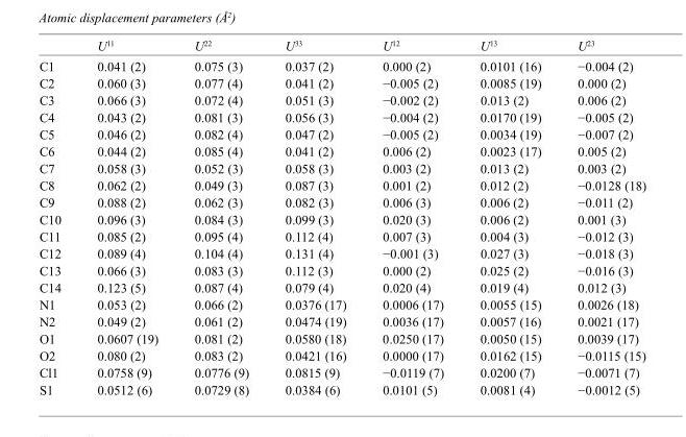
<table><thead><tr><td></td><td>U<sup>11</sup></td><td>U<sup>22</sup></td><td>U<sup>33</sup></td><td>U<sup>12</sup></td><td>U<sup>13</sup></td><td>U<sup>23</sup></td></tr></thead><tbody><tr><td>C1</td><td>0.041 (2)</td><td>0.075 (3)</td><td>0.037 (2)</td><td>0.000 (2)</td><td>0.0101 (16)</td><td>−0.004 (2)</td></tr><tr><td>C2</td><td>0.060 (3)</td><td>0.077 (4)</td><td>0.041 (2)</td><td>−0.005 (2)</td><td>0.0085 (19)</td><td>0.000 (2)</td></tr><tr><td>C3</td><td>0.066 (3)</td><td>0.072 (4)</td><td>0.051 (3)</td><td>−0.002 (2)</td><td>0.013 (2)</td><td>0.006 (2)</td></tr><tr><td>C4</td><td>0.043 (2)</td><td>0.081 (3)</td><td>0.056 (3)</td><td>−0.004 (2)</td><td>0.0170 (19)</td><td>−0.005 (2)</td></tr><tr><td>C5</td><td>0.046 (2)</td><td>0.082 (4)</td><td>0.047 (2)</td><td>−0.005 (2)</td><td>0.0034 (19)</td><td>−0.007 (2)</td></tr><tr><td>C6</td><td>0.044 (2)</td><td>0.085 (4)</td><td>0.041 (2)</td><td>0.006 (2)</td><td>0.0023 (17)</td><td>0.005 (2)</td></tr><tr><td>C7</td><td>0.058 (3)</td><td>0.052 (3)</td><td>0.058 (3)</td><td>0.003 (2)</td><td>0.013 (2)</td><td>0.003 (2)</td></tr><tr><td>C8</td><td>0.062 (2)</td><td>0.049 (3)</td><td>0.087 (3)</td><td>0.001 (2)</td><td>0.012 (2)</td><td>−0.0128 (18)</td></tr><tr><td>C9</td><td>0.088 (2)</td><td>0.062 (3)</td><td>0.082 (3)</td><td>0.006 (3)</td><td>0.006 (2)</td><td>−0.011 (2)</td></tr><tr><td>C10</td><td>0.096 (3)</td><td>0.084 (3)</td><td>0.099 (3)</td><td>0.020 (3)</td><td>0.006 (2)</td><td>0.001 (3)</td></tr><tr><td>C11</td><td>0.085 (2)</td><td>0.095 (4)</td><td>0.112 (4)</td><td>0.007 (3)</td><td>0.004 (3)</td><td>−0.012 (3)</td></tr><tr><td>C12</td><td>0.089 (4)</td><td>0.104 (4)</td><td>0.131 (4)</td><td>−0.001 (3)</td><td>0.027 (3)</td><td>−0.018 (3)</td></tr><tr><td>C13</td><td>0.066 (3)</td><td>0.083 (3)</td><td>0.112 (3)</td><td>0.000 (2)</td><td>0.025 (2)</td><td>−0.016 (3)</td></tr><tr><td>C14</td><td>0.123 (5)</td><td>0.087 (4)</td><td>0.079 (4)</td><td>0.020 (4)</td><td>0.019 (4)</td><td>0.012 (3)</td></tr><tr><td>N1</td><td>0.053 (2)</td><td>0.066 (2)</td><td>0.0376 (17)</td><td>0.0006 (17)</td><td>0.0055 (15)</td><td>0.0026 (18)</td></tr><tr><td>N2</td><td>0.049 (2)</td><td>0.061 (2)</td><td>0.0474 (19)</td><td>0.0036 (17)</td><td>0.0057 (16)</td><td>0.0021 (17)</td></tr><tr><td>O1</td><td>0.0607 (19)</td><td>0.081 (2)</td><td>0.0580 (18)</td><td>0.0250 (17)</td><td>0.0050 (15)</td><td>0.0039 (17)</td></tr><tr><td>O2</td><td>0.080 (2)</td><td>0.083 (2)</td><td>0.0421 (16)</td><td>0.0000 (17)</td><td>0.0162 (15)</td><td>−0.0115 (15)</td></tr><tr><td>Cl1</td><td>0.0758 (9)</td><td>0.0776 (9)</td><td>0.0815 (9)</td><td>−0.0119 (7)</td><td>0.0200 (7)</td><td>−0.0071 (7)</td></tr><tr><td>S1</td><td>0.0512 (6)</td><td>0.0729 (8)</td><td>0.0384 (6)</td><td>0.0101 (5)</td><td>0.0081 (4)</td><td>−0.0012 (5)</td></tr></tbody></table>